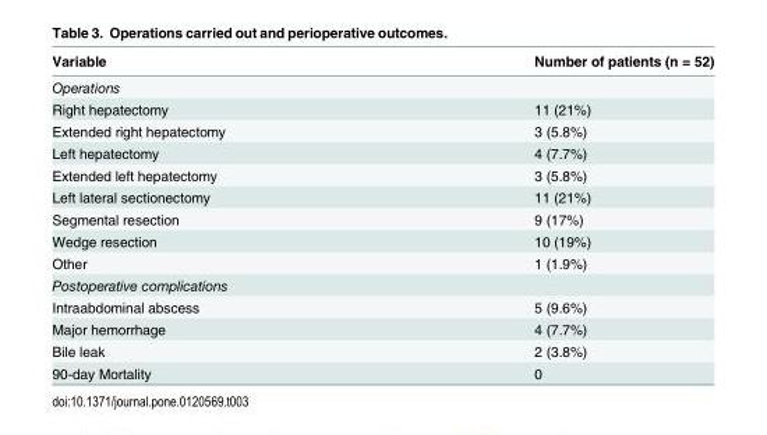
<table><thead><tr><td>Variable</td><td>Number of patients (n = 52)</td></tr></thead><tbody><tr><td colspan="2">Operations</td></tr><tr><td>Right hepatectomy</td><td>11 (21%)</td></tr><tr><td>Extended right hepatectomy</td><td>3 (5.8%)</td></tr><tr><td>Left hepatectomy</td><td>4 (7.7%)</td></tr><tr><td>Extended left hepatectomy</td><td>3 (5.8%)</td></tr><tr><td>Left lateral sectionectomy</td><td>11 (21%)</td></tr><tr><td>Segmental resection</td><td>9 (17%)</td></tr><tr><td>Wedge resection</td><td>10 (19%)</td></tr><tr><td>Other</td><td>1 (1.9%)</td></tr><tr><td colspan="2">Postoperative complications</td></tr><tr><td>Intraabdominal abscess</td><td>5 (9.6%)</td></tr><tr><td>Major hemorrhage</td><td>4 (7.7%)</td></tr><tr><td>Bile leak</td><td>2 (3.8%)</td></tr><tr><td>90-day Mortality</td><td>0</td></tr></tbody></table>